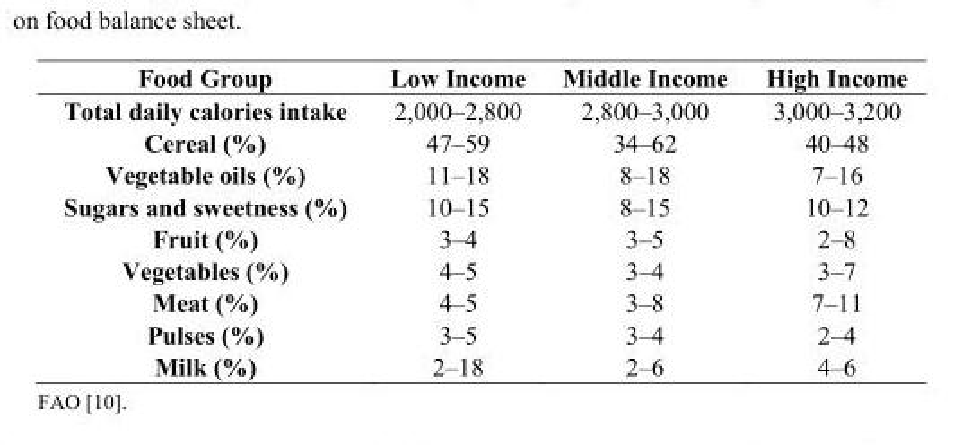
<table><thead><tr><td>Food Group</td><td>Low Income</td><td>Middle Income</td><td>High Income</td></tr></thead><tbody><tr><td>Total daily calories intake</td><td>2,000–2,800</td><td>2,800–3,000</td><td>3,000–3,200</td></tr><tr><td>Cereal (%)</td><td>47–59</td><td>34–62</td><td>40–48</td></tr><tr><td>Vegetable oils (%)</td><td>11–18</td><td>8–18</td><td>7–16</td></tr><tr><td>Sugars and sweetness (%)</td><td>10–15</td><td>8–15</td><td>10–12</td></tr><tr><td>Fruit (%)</td><td>3–4</td><td>3–5</td><td>2–8</td></tr><tr><td>Vegetables (%)</td><td>4–5</td><td>3–4</td><td>3–7</td></tr><tr><td>Meat (%)</td><td>4–5</td><td>3–8</td><td>7–11</td></tr><tr><td>Pulses (%)</td><td>3–5</td><td>3–4</td><td>2–4</td></tr><tr><td>Milk (%)</td><td>2–18</td><td>2–6</td><td>4–6</td></tr></tbody></table>